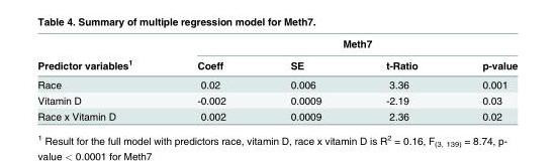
<table><thead><tr><td rowspan="2">Predictor variables<sup>1</sup></td><td colspan="4">Meth7</td></tr><tr><td>Coeff</td><td>SE</td><td>t-Ratio</td><td>p-value</td></tr></thead><tbody><tr><td>Race</td><td>0.02</td><td>0.006</td><td>3.36</td><td>0.001</td></tr><tr><td>Vitamin D</td><td>-0.002</td><td>0.0009</td><td>-2.19</td><td>0.03</td></tr><tr><td>Race x Vitamin D</td><td>0.002</td><td>0.0009</td><td>2.36</td><td>0.02</td></tr></tbody></table>